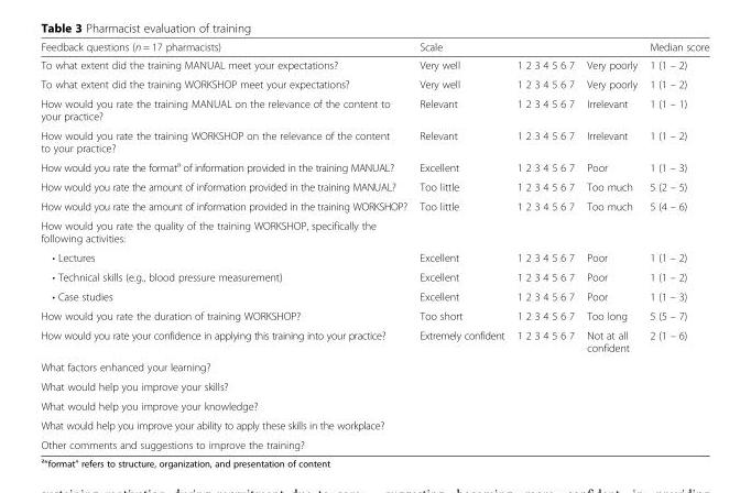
<table><thead><tr><td rowspan="2">Feedback questions (n = 17 pharmacists) To what extent did the training MANUAL meet your expectations?</td><td colspan="3">Scale</td><td rowspan="2">Median score 1 (1 – 2)</td></tr><tr><td>Very well</td><td>1 2 3 4 5 6 7</td><td>Very poorly</td></tr></thead><tbody><tr><td>To what extent did the training WORKSHOP meet your expectations?</td><td>Very well</td><td>1 2 3 4 5 6 7</td><td>Very poorly</td><td>1 (1 – 2)</td></tr><tr><td>How would you rate the training MANUAL on the relevance of the content to your practice?</td><td>Relevant</td><td>1 2 3 4 5 6 7</td><td>Irrelevant</td><td>1 (1 – 1)</td></tr><tr><td>How would you rate the training WORKSHOP on the relevance of the content to your practice?</td><td>Relevant</td><td>1 2 3 4 5 6 7</td><td>Irrelevant</td><td>1 (1 – 2)</td></tr><tr><td>How would you rate the format<sup>a</sup> of information provided in the training MANUAL?</td><td>Excellent</td><td>1 2 3 4 5 6 7</td><td>Poor</td><td>1 (1 – 3)</td></tr><tr><td>How would you rate the amount of information provided in the training MANUAL?</td><td>Too little</td><td>1 2 3 4 5 6 7</td><td>Too much</td><td>5 (2 – 5)</td></tr><tr><td>How would you rate the amount of information provided in the training WORKSHOP?</td><td>Too little</td><td>1 2 3 4 5 6 7</td><td>Too much</td><td>5 (4 – 6)</td></tr><tr><td colspan="5">How would you rate the quality of the training WORKSHOP, specifically the following activities:</td></tr><tr><td>• Lectures</td><td>Excellent</td><td>1 2 3 4 5 6 7</td><td>Poor</td><td>1 (1 – 2)</td></tr><tr><td>• Technical skills (e.g., blood pressure measurement)</td><td>Excellent</td><td>1 2 3 4 5 6 7</td><td>Poor</td><td>1 (1 – 2)</td></tr><tr><td>• Case studies</td><td>Excellent</td><td>1 2 3 4 5 6 7</td><td>Poor</td><td>1 (1 – 3)</td></tr><tr><td>How would you rate the duration of training WORKSHOP?</td><td>Too short</td><td>1 2 3 4 5 6 7</td><td>Too long</td><td>5 (5 – 7)</td></tr><tr><td>How would you rate your confidence in applying this training into your practice?</td><td>Extremely confident</td><td>1 2 3 4 5 6 7</td><td>Not at all confident</td><td>2 (1 – 6)</td></tr><tr><td colspan="5">What factors enhanced your learning?</td></tr><tr><td colspan="5">What would help you improve your skills?</td></tr><tr><td colspan="5">What would help you improve your knowledge?</td></tr><tr><td colspan="5">What would help you improve your ability to apply these skills in the workplace?</td></tr><tr><td colspan="5">Other comments and suggestions to improve the training?</td></tr></tbody></table>